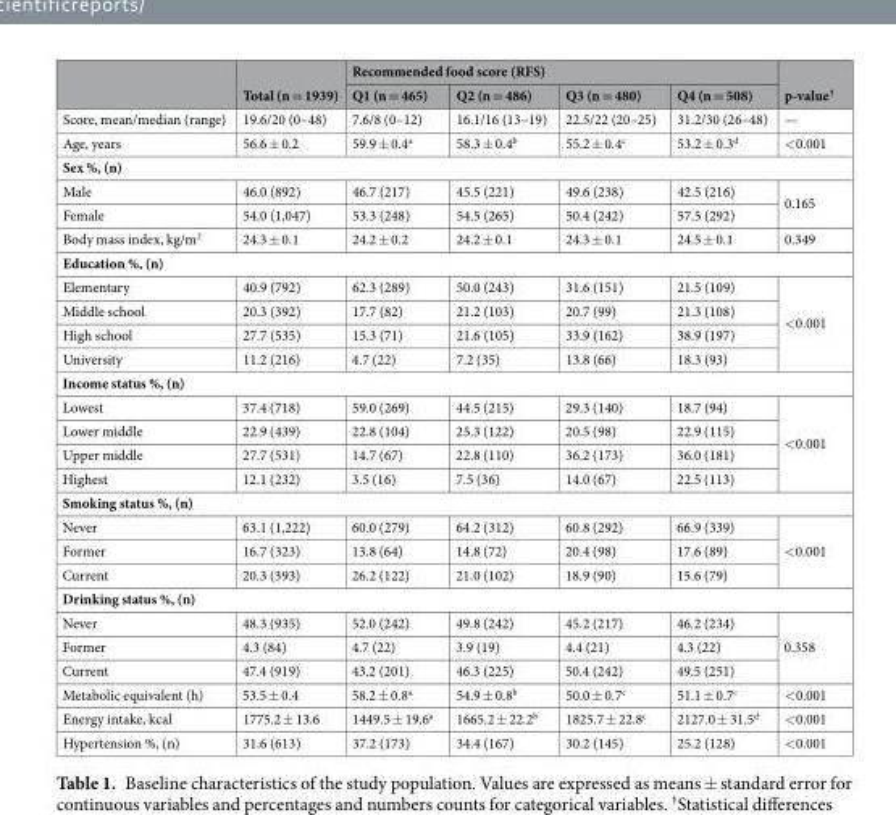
<table><thead><tr><td rowspan="2"></td><td rowspan="2">Total (n = 1939)</td><td colspan="4">Recommended food score (RFS)</td><td rowspan="2">p-value<sup>†</sup></td></tr><tr><td>Q1 (n = 465)</td><td>Q2 (n = 486)</td><td>Q3 (n = 480)</td><td>Q4 (n = 508)</td></tr></thead><tbody><tr><td>Score, mean/median (range)</td><td>19.6/20 (0–48)</td><td>7.6/8 (0–12)</td><td>16.1/16 (13–19)</td><td>22.5/22 (20–25)</td><td>31.2/30 (26–48)</td><td>—</td></tr><tr><td>Age, years</td><td>56.6 ± 0.2</td><td>59.9 ± 0.4<sup>a</sup></td><td>58.3 ± 0.4<sup>b</sup></td><td>55.2 ± 0.4<sup>c</sup></td><td>53.2 ± 0.3<sup>d</sup></td><td>&lt;0.001</td></tr><tr><td colspan="7">Sex %, (n)</td></tr><tr><td>Male</td><td>46.0 (892)</td><td>46.7 (217)</td><td>45.5 (221)</td><td>49.6 (238)</td><td>42.5 (216)</td><td rowspan="2">0.165</td></tr><tr><td>Female</td><td>54.0 (1,047)</td><td>53.3 (248)</td><td>54.5 (265)</td><td>50.4 (242)</td><td>57.5 (292)</td></tr><tr><td>Body mass index, kg/m<sup>2</sup></td><td>24.3 ± 0.1</td><td>24.2 ± 0.2</td><td>24.2 ± 0.1</td><td>24.3 ± 0.1</td><td>24.5 ± 0.1</td><td>0.349</td></tr><tr><td colspan="7">Education %, (n)</td></tr><tr><td>Elementary</td><td>40.9 (792)</td><td>62.3 (289)</td><td>50.0 (243)</td><td>31.6 (151)</td><td>21.5 (109)</td><td rowspan="4">&lt;0.001</td></tr><tr><td>Middle school</td><td>20.3 (392)</td><td>17.7 (82)</td><td>21.2 (103)</td><td>20.7 (99)</td><td>21.3 (108)</td></tr><tr><td>High school</td><td>27.7 (535)</td><td>15.3 (71)</td><td>21.6 (105)</td><td>33.9 (162)</td><td>38.9 (197)</td></tr><tr><td>University</td><td>11.2 (216)</td><td>4.7 (22)</td><td>7.2 (35)</td><td>13.8 (66)</td><td>18.3 (93)</td></tr><tr><td colspan="7">Income status %, (n)</td></tr><tr><td>Lowest</td><td>37.4 (718)</td><td>59.0 (269)</td><td>44.5 (215)</td><td>29.3 (140)</td><td>18.7 (94)</td><td rowspan="4">&lt;0.001</td></tr><tr><td>Lower middle</td><td>22.9 (439)</td><td>22.8 (104)</td><td>25.3 (122)</td><td>20.5 (98)</td><td>22.9 (115)</td></tr><tr><td>Upper middle</td><td>27.7 (531)</td><td>14.7 (67)</td><td>22.8 (110)</td><td>36.2 (173)</td><td>36.0 (181)</td></tr><tr><td>Highest</td><td>12.1 (232)</td><td>3.5 (16)</td><td>7.5 (36)</td><td>14.0 (67)</td><td>22.5 (113)</td></tr><tr><td colspan="7">Smoking status %, (n)</td></tr><tr><td>Never</td><td>63.1 (1,222)</td><td>60.0 (279)</td><td>64.2 (312)</td><td>60.8 (292)</td><td>66.9 (339)</td><td rowspan="3">&lt;0.001</td></tr><tr><td>Former</td><td>16.7 (323)</td><td>13.8 (64)</td><td>14.8 (72)</td><td>20.4 (98)</td><td>17.6 (89)</td></tr><tr><td>Current</td><td>20.3 (393)</td><td>26.2 (122)</td><td>21.0 (102)</td><td>18.9 (90)</td><td>15.6 (79)</td></tr><tr><td colspan="7">Drinking status %, (n)</td></tr><tr><td>Never</td><td>48.3 (935)</td><td>52.0 (242)</td><td>49.8 (242)</td><td>45.2 (217)</td><td>46.2 (234)</td><td rowspan="3">0.358</td></tr><tr><td>Former</td><td>4.3 (84)</td><td>4.7 (22)</td><td>3.9 (19)</td><td>4.4 (21)</td><td>4.3 (22)</td></tr><tr><td>Current</td><td>47.4 (919)</td><td>43.2 (201)</td><td>46.3 (225)</td><td>50.4 (242)</td><td>49.5 (251)</td></tr><tr><td>Metabolic equivalent (h)</td><td>53.5 ± 0.4</td><td>58.2 ± 0.8<sup>a</sup></td><td>54.9 ± 0.8<sup>b</sup></td><td>50.0 ± 0.7<sup>c</sup></td><td>51.1 ± 0.7<sup>c</sup></td><td>&lt;0.001</td></tr><tr><td>Energy intake, kcal</td><td>1775.2 ± 13.6</td><td>1449.5 ± 19.6<sup>a</sup></td><td>1665.2 ± 22.2<sup>b</sup></td><td>1825.7 ± 22.8<sup>c</sup></td><td>2127.0 ± 31.5<sup>d</sup></td><td>&lt;0.001</td></tr><tr><td>Hypertension %, (n)</td><td>31.6 (613)</td><td>37.2 (173)</td><td>34.4 (167)</td><td>30.2 (145)</td><td>25.2 (128)</td><td>&lt;0.001</td></tr></tbody></table>